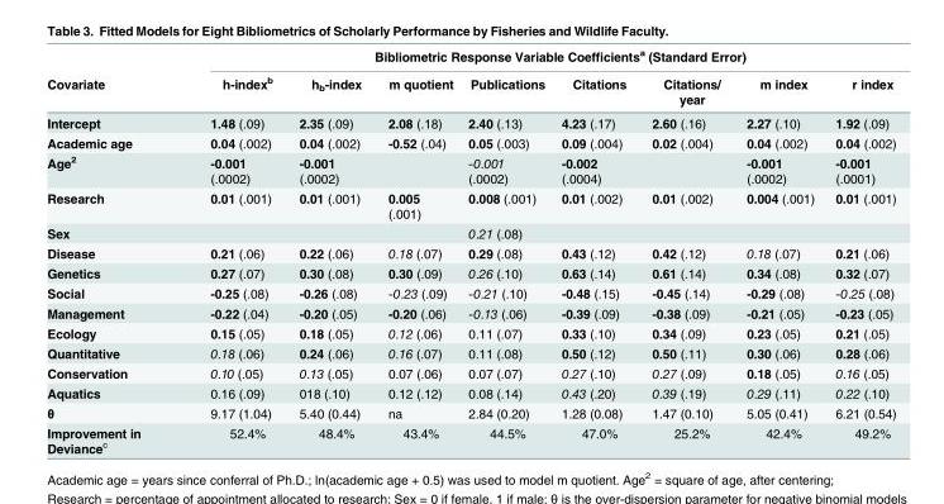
<table><thead><tr><td rowspan="2">Covariate</td><td colspan="8">Bibliometric Response Variable Coefficients<sup>a</sup> (Standard Error)</td></tr><tr><td>h-index<sup>b</sup></td><td>h<sub>b</sub>-index</td><td>m quotient</td><td>Publications</td><td>Citations</td><td>Citations/ year</td><td>m index</td><td>r index</td></tr></thead><tbody><tr><td>Intercept</td><td>1.48 (.09)</td><td>2.35 (.09)</td><td>2.08 (.18)</td><td>2.40 (.13)</td><td>4.23 (.17)</td><td>2.60 (.16)</td><td>2.27 (.10)</td><td>1.92 (.09)</td></tr><tr><td>Academic age</td><td>0.04 (.002)</td><td>0.04 (.002)</td><td>-0.52 (.04)</td><td>0.05 (.003)</td><td>0.09 (.004)</td><td>0.02 (.004)</td><td>0.04 (.002)</td><td>0.04 (.002)</td></tr><tr><td>Age<sup>2</sup></td><td>-0.001 (.0002)</td><td>-0.001 (.0002)</td><td></td><td>-0.001 (.0002)</td><td>-0.002 (.0004)</td><td></td><td>-0.001 (.0002)</td><td>-0.001 (.0001)</td></tr><tr><td>Research</td><td>0.01 (.001)</td><td>0.01 (.001)</td><td>0.005 (.001)</td><td>0.008 (.001)</td><td>0.01 (.002)</td><td>0.01 (.002)</td><td>0.004 (.001)</td><td>0.01 (.001)</td></tr><tr><td>Sex</td><td></td><td></td><td></td><td>0.21 (.08)</td><td></td><td></td><td></td><td></td></tr><tr><td>Disease</td><td>0.21 (.06)</td><td>0.22 (.06)</td><td>0.18 (.07)</td><td>0.29 (.08)</td><td>0.43 (.12)</td><td>0.42 (.12)</td><td>0.18 (.07)</td><td>0.21 (.06)</td></tr><tr><td>Genetics</td><td>0.27 (.07)</td><td>0.30 (.08)</td><td>0.30 (.09)</td><td>0.26 (.10)</td><td>0.63 (.14)</td><td>0.61 (.14)</td><td>0.34 (.08)</td><td>0.32 (.07)</td></tr><tr><td>Social</td><td>-0.25 (.08)</td><td>-0.26 (.08)</td><td>-0.23 (.09)</td><td>-0.21 (.10)</td><td>-0.48 (.15)</td><td>-0.45 (.14)</td><td>-0.29 (.08)</td><td>-0.25 (.08)</td></tr><tr><td>Management</td><td>-0.22 (.04)</td><td>-0.20 (.05)</td><td>-0.20 (.06)</td><td>-0.13 (.06)</td><td>-0.39 (.09)</td><td>-0.38 (.09)</td><td>-0.21 (.05)</td><td>-0.23 (.05)</td></tr><tr><td>Ecology</td><td>0.15 (.05)</td><td>0.18 (.05)</td><td>0.12 (.06)</td><td>0.11 (.07)</td><td>0.33 (.10)</td><td>0.34 (.09)</td><td>0.23 (.05)</td><td>0.21 (.05)</td></tr><tr><td>Quantitative</td><td>0.18 (.06)</td><td>0.24 (.06)</td><td>0.16 (.07)</td><td>0.11 (.08)</td><td>0.50 (.12)</td><td>0.50 (.11)</td><td>0.30 (.06)</td><td>0.28 (.06)</td></tr><tr><td>Conservation</td><td>0.10 (.05)</td><td>0.13 (.05)</td><td>0.07 (.06)</td><td>0.07 (.07)</td><td>0.27 (.10)</td><td>0.27 (.09)</td><td>0.18 (.05)</td><td>0.16 (.05)</td></tr><tr><td>Aquatics</td><td>0.16 (.09)</td><td>018 (.10)</td><td>0.12 (.12)</td><td>0.08 (.14)</td><td>0.43 (.20)</td><td>0.39 (.19)</td><td>0.29 (.11)</td><td>0.22 (.10)</td></tr><tr><td>θ</td><td>9.17 (1.04)</td><td>5.40 (0.44)</td><td>na</td><td>2.84 (0.20)</td><td>1.28 (0.08)</td><td>1.47 (0.10)</td><td>5.05 (0.41)</td><td>6.21 (0.54)</td></tr><tr><td>Improvement in Deviance<sup>c</sup></td><td>52.4%</td><td>48.4%</td><td>43.4%</td><td>44.5%</td><td>47.0%</td><td>25.2%</td><td>42.4%</td><td>49.2%</td></tr></tbody></table>